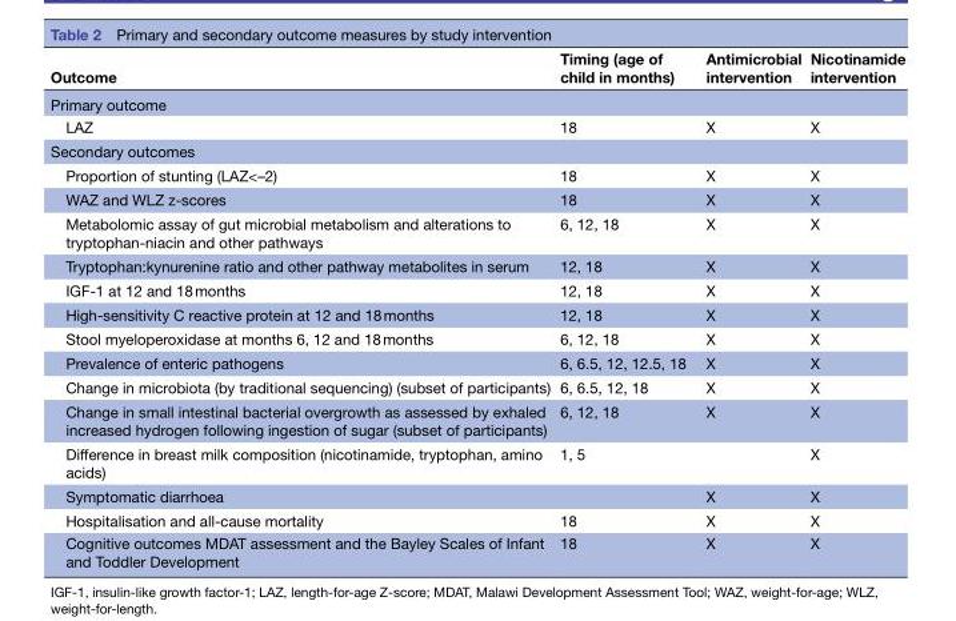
<table><thead><tr><td>Outcome</td><td>Timing (age of child in months)</td><td>Antimicrobial intervention</td><td>Nicotinamide intervention</td></tr></thead><tbody><tr><td colspan="4">Primary outcome</td></tr><tr><td>LAZ</td><td>18</td><td>X</td><td>X</td></tr><tr><td colspan="4">Secondary outcomes</td></tr><tr><td>Proportion of stunting (LAZ&lt;–2)</td><td>18</td><td>X</td><td>X</td></tr><tr><td>WAZ and WLZ z-scores</td><td>18</td><td>X</td><td>X</td></tr><tr><td>Metabolomic assay of gut microbial metabolism and alterations to tryptophan-niacin and other pathways</td><td>6, 12, 18</td><td>X</td><td>X</td></tr><tr><td>Tryptophan:kynurenine ratio and other pathway metabolites in serum</td><td>12, 18</td><td>X</td><td>X</td></tr><tr><td>IGF-1 at 12 and 18 months</td><td>12, 18</td><td>X</td><td>X</td></tr><tr><td>High-sensitivity C reactive protein at 12 and 18 months</td><td>12, 18</td><td>X</td><td>X</td></tr><tr><td>Stool myeloperoxidase at months 6, 12 and 18 months</td><td>6, 12, 18</td><td>X</td><td>X</td></tr><tr><td>Prevalence of enteric pathogens</td><td>6, 6.5, 12, 12.5, 18</td><td>X</td><td>X</td></tr><tr><td>Change in microbiota (by traditional sequencing) (subset of participants)</td><td>6, 6.5, 12, 18</td><td>X</td><td>X</td></tr><tr><td>Change in small intestinal bacterial overgrowth as assessed by exhaled increased hydrogen following ingestion of sugar (subset of participants)</td><td>6, 12, 18</td><td>X</td><td>X</td></tr><tr><td>Difference in breast milk composition (nicotinamide, tryptophan, amino acids)</td><td>1, 5</td><td></td><td>X</td></tr><tr><td>Symptomatic diarrhoea</td><td></td><td>X</td><td>X</td></tr><tr><td>Hospitalisation and all-cause mortality</td><td>18</td><td>X</td><td>X</td></tr><tr><td>Cognitive outcomes MDAT assessment and the Bayley Scales of Infant and Toddler Development</td><td>18</td><td>X</td><td>X</td></tr></tbody></table>